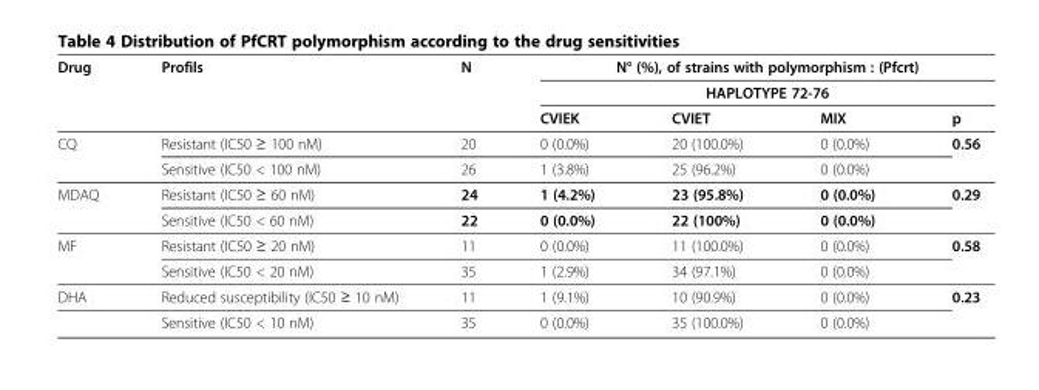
<table><thead><tr><td rowspan="3">Drug</td><td rowspan="3">Profils</td><td rowspan="3">N</td><td rowspan="2" colspan="4">N° (%), of strains with polymorphism : (Pfcrt) HAPLOTYPE 72-76</td></tr><tr></tr><tr><td>CVIEK</td><td>CVIET</td><td>MIX</td><td>p</td></tr></thead><tbody><tr><td rowspan="2">CQ</td><td>Resistant (IC50 ≥ 100 nM)</td><td>20</td><td>0 (0.0%)</td><td>20 (100.0%)</td><td>0 (0.0%)</td><td rowspan="2">0.56</td></tr><tr><td>Sensitive (IC50 &lt; 100 nM)</td><td>26</td><td>1 (3.8%)</td><td>25 (96.2%)</td><td>0 (0.0%)</td></tr><tr><td rowspan="2">MDAQ</td><td>Resistant (IC50 ≥ 60 nM)</td><td>24</td><td>1 (4.2%)</td><td>23 (95.8%)</td><td>0 (0.0%)</td><td rowspan="2">0.29</td></tr><tr><td>Sensitive (IC50 &lt; 60 nM)</td><td>22</td><td>0 (0.0%)</td><td>22 (100%)</td><td>0 (0.0%)</td></tr><tr><td rowspan="2">MF</td><td>Resistant (IC50 ≥ 20 nM)</td><td>11</td><td>0 (0.0%)</td><td>11 (100.0%)</td><td>0 (0.0%)</td><td rowspan="2">0.58</td></tr><tr><td>Sensitive (IC50 &lt; 20 nM)</td><td>35</td><td>1 (2.9%)</td><td>34 (97.1%)</td><td>0 (0.0%)</td></tr><tr><td rowspan="2">DHA</td><td>Reduced susceptibility (IC50 ≥ 10 nM)</td><td>11</td><td>1 (9.1%)</td><td>10 (90.9%)</td><td>0 (0.0%)</td><td rowspan="2">0.23</td></tr><tr><td>Sensitive (IC50 &lt; 10 nM)</td><td>35</td><td>0 (0.0%)</td><td>35 (100.0%)</td><td>0 (0.0%)</td></tr></tbody></table>